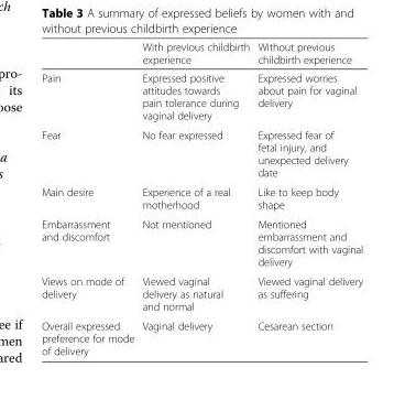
<table><thead><tr><td></td><td>With previous childbirth experience</td><td>Without previous childbirth experience</td></tr></thead><tbody><tr><td>Pain</td><td>Expressed positive attitudes towards pain tolerance during vaginal delivery</td><td>Expressed worries about pain for vaginal delivery</td></tr><tr><td>Fear</td><td>No fear expressed</td><td>Expressed fear of fetal injury, and unexpected delivery date</td></tr><tr><td>Main desire</td><td>Experience of a real motherhood</td><td>Like to keep body shape</td></tr><tr><td>Embarrassment and discomfort</td><td>Not mentioned</td><td>Mentioned embarrassment and discomfort with vaginal delivery</td></tr><tr><td>Views on mode of delivery</td><td>Viewed vaginal delivery as natural and normal</td><td>Viewed vaginal delivery as suffering</td></tr><tr><td>Overall expressed preference for mode of delivery</td><td>Vaginal delivery</td><td>Cesarean section</td></tr></tbody></table>